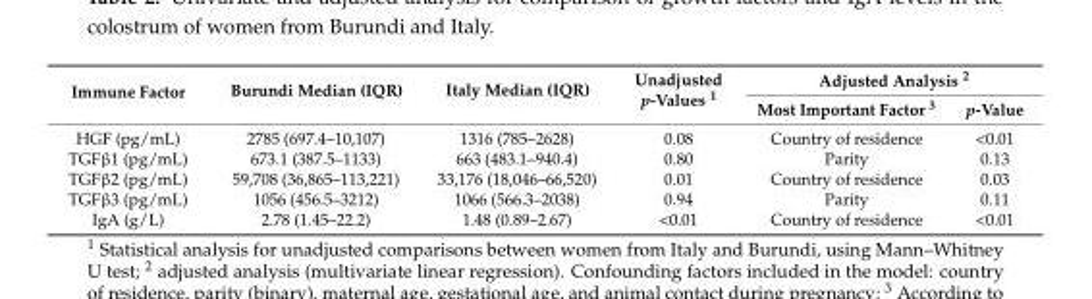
<table><thead><tr><td rowspan="2">Immune Factor</td><td rowspan="2">Burundi Median (IQR)</td><td rowspan="2">Italy Median (IQR)</td><td rowspan="2">Unadjusted p-Values <sup>1</sup></td><td colspan="2">Adjusted Analysis <sup>2</sup></td></tr><tr><td>Most Important Factor <sup>3</sup></td><td>p-Value</td></tr></thead><tbody><tr><td>HGF (pg/mL)</td><td>2785 (697.4–10,107)</td><td>1316 (785–2628)</td><td>0.08</td><td>Country of residence</td><td>&lt;0.01</td></tr><tr><td>TGFβ1 (pg/mL)</td><td>673.1 (387.5–1133)</td><td>663 (483.1–940.4)</td><td>0.80</td><td>Parity</td><td>0.13</td></tr><tr><td>TGFβ2 (pg/mL)</td><td>59,708 (36,865–113,221)</td><td>33,176 (18,046–66,520)</td><td>0.01</td><td>Country of residence</td><td>0.03</td></tr><tr><td>TGFβ3 (pg/mL)</td><td>1056 (456.5–3212)</td><td>1066 (566.3–2038)</td><td>0.94</td><td>Parity</td><td>0.11</td></tr><tr><td>IgA (g/L)</td><td>2.78 (1.45–22.2)</td><td>1.48 (0.89–2.67)</td><td>&lt;0.01</td><td>Country of residence</td><td>&lt;0.01</td></tr></tbody></table>